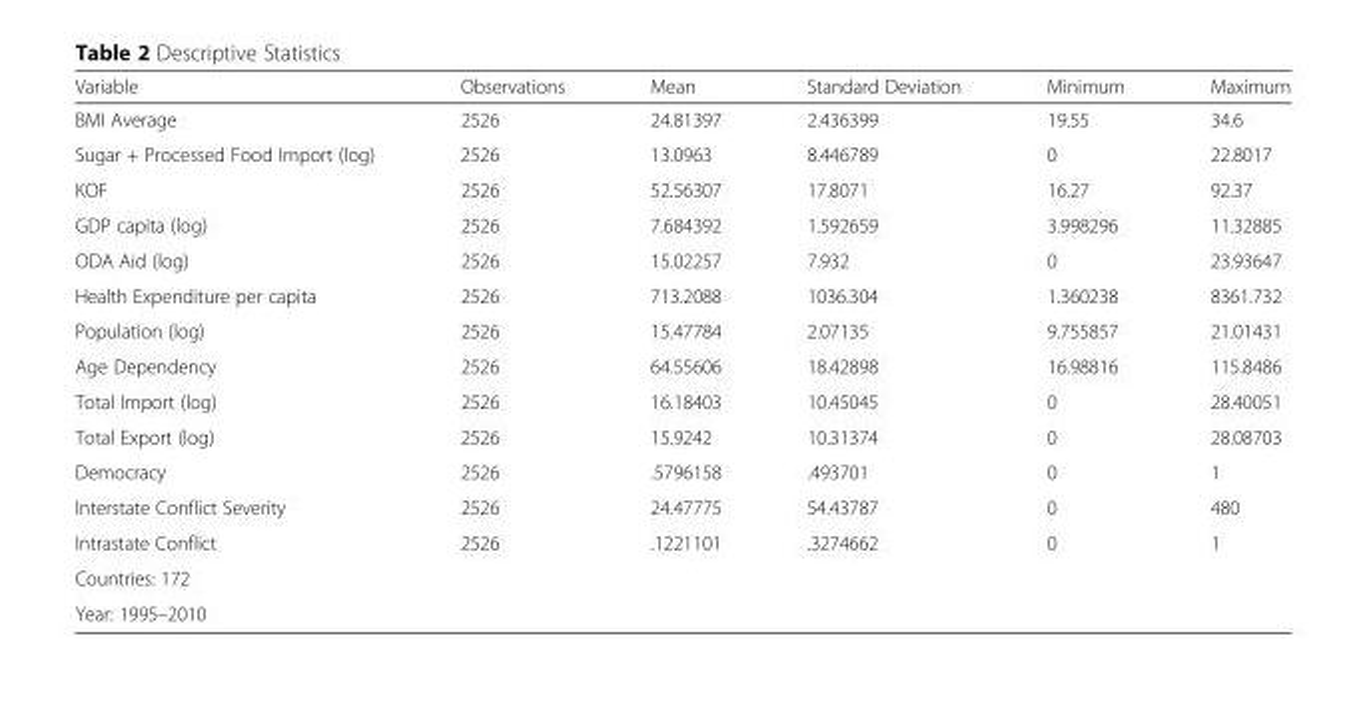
<table><thead><tr><td>Variable</td><td>Observations</td><td>Mean</td><td>Standard Deviation</td><td>Minimum</td><td>Maximum</td></tr></thead><tbody><tr><td>BMI Average</td><td>2526</td><td>24.81397</td><td>2.436399</td><td>19.55</td><td>34.6</td></tr><tr><td>Sugar + Processed Food Import (log)</td><td>2526</td><td>13.0963</td><td>8.446789</td><td>0</td><td>22.8017</td></tr><tr><td>KOF</td><td>2526</td><td>52.56307</td><td>17.8071</td><td>16.27</td><td>92.37</td></tr><tr><td>GDP capita (log)</td><td>2526</td><td>7.684392</td><td>1.592659</td><td>3.998296</td><td>11.32885</td></tr><tr><td>ODA Aid (log)</td><td>2526</td><td>15.02257</td><td>7.932</td><td>0</td><td>23.93647</td></tr><tr><td>Health Expenditure per capita</td><td>2526</td><td>713.2088</td><td>1036.304</td><td>1.360238</td><td>8361.732</td></tr><tr><td>Population (log)</td><td>2526</td><td>15.47784</td><td>2.07135</td><td>9.755857</td><td>21.01431</td></tr><tr><td>Age Dependency</td><td>2526</td><td>64.55606</td><td>18.42898</td><td>16.98816</td><td>115.8486</td></tr><tr><td>Total Import (log)</td><td>2526</td><td>16.18403</td><td>10.45045</td><td>0</td><td>28.40051</td></tr><tr><td>Total Export (log)</td><td>2526</td><td>15.9242</td><td>10.31374</td><td>0</td><td>28.08703</td></tr><tr><td>Democracy</td><td>2526</td><td>.5796158</td><td>.493701</td><td>0</td><td>1</td></tr><tr><td>Interstate Conflict Severity</td><td>2526</td><td>24.47775</td><td>54.43787</td><td>0</td><td>480</td></tr><tr><td>Intrastate Conflict</td><td>2526</td><td>.1221101</td><td>.3274662</td><td>0</td><td>1</td></tr><tr><td colspan="6">Countries: 172</td></tr><tr><td colspan="6">Year: 1995–2010</td></tr></tbody></table>